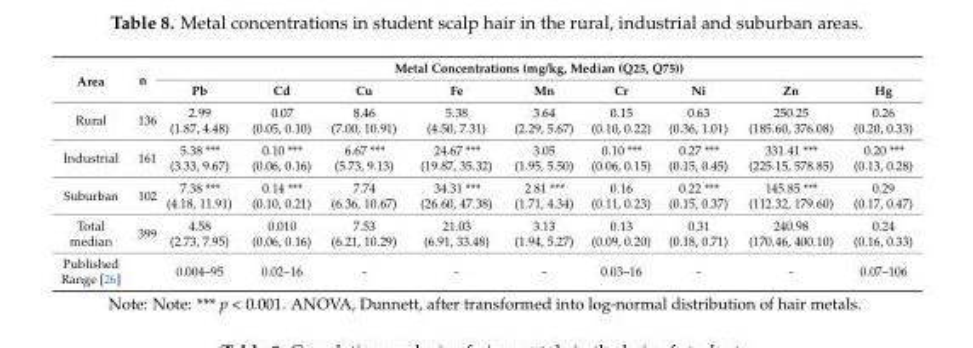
<table><thead><tr><td rowspan="2">Area</td><td rowspan="2">n</td><td colspan="9">Metal Concentrations (mg/kg, Median (Q25, Q75))</td></tr><tr><td>Pb</td><td>Cd</td><td>Cu</td><td>Fe</td><td>Mn</td><td>Cr</td><td>Ni</td><td>Zn</td><td>Hg</td></tr></thead><tbody><tr><td>Rural</td><td>136</td><td>2.99 (1.87, 4.48)</td><td>0.07 (0.05, 0.10)</td><td>8.46 (7.00, 10.91)</td><td>5.38 (4.50, 7.31)</td><td>3.64 (2.29, 5.67)</td><td>0.15 (0.10, 0.22)</td><td>0.63 (0.36, 1.01)</td><td>250.25 (185.60, 376.08)</td><td>0.26 (0.20, 0.33)</td></tr><tr><td>Industrial</td><td>161</td><td>5.38 *** (3.33, 9.67)</td><td>0.10 *** (0.06, 0.16)</td><td>6.67 *** (5.73, 9.13)</td><td>24.67 *** (19.87, 35.32)</td><td>3.05 (1.95, 5.50)</td><td>0.10 *** (0.06, 0.15)</td><td>0.27 *** (0.15, 0.45)</td><td>331.41 *** (225.15, 578.85)</td><td>0.20 *** (0.13, 0.28)</td></tr><tr><td>Suburban</td><td>102</td><td>7.38 *** (4.18, 11.91)</td><td>0.14 *** (0.10, 0.21)</td><td>7.74 (6.36, 10.67)</td><td>34.31 *** (26.60, 47.38)</td><td>2.81 *** (1.71, 4.34)</td><td>0.16 (0.11, 0.23)</td><td>0.22 *** (0.15, 0.37)</td><td>145.85 *** (112.32, 179.60)</td><td>0.29 (0.17, 0.47)</td></tr><tr><td>Total median</td><td>399</td><td>4.58 (2.73, 7.95)</td><td>0.010 (0.06, 0.16)</td><td>7.53 (6.21, 10.29)</td><td>21.03 (6.91, 33.48)</td><td>3.13 (1.94, 5.27)</td><td>0.13 (0.09, 0.20)</td><td>0.31 (0.18, 0.71)</td><td>240.98 (170.46, 400.10)</td><td>0.24 (0.16, 0.33)</td></tr><tr><td>Published Range [26]</td><td></td><td>0.004–95</td><td>0.02–16</td><td>-</td><td>-</td><td>-</td><td>0.03–16</td><td>-</td><td>-</td><td>0.07–106</td></tr></tbody></table>